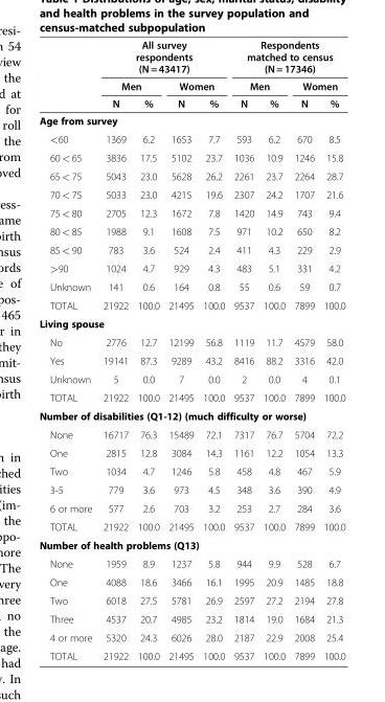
<table><thead><tr><td rowspan="3"></td><td colspan="4">All survey respondents (N = 43417)</td><td colspan="4">Respondents matched to census (N = 17346)</td></tr><tr><td colspan="2">Men</td><td colspan="2">Women</td><td colspan="2">Men</td><td colspan="2">Women</td></tr><tr><td>N</td><td>%</td><td>N</td><td>%</td><td>N</td><td>%</td><td>N</td><td>%</td></tr></thead><tbody><tr><td colspan="9">Age from survey</td></tr><tr><td>&lt;60</td><td>1369</td><td>6.2</td><td>1653</td><td>7.7</td><td>593</td><td>6.2</td><td>670</td><td>8.5</td></tr><tr><td>60 &lt; 65</td><td>3836</td><td>17.5</td><td>5102</td><td>23.7</td><td>1036</td><td>10.9</td><td>1246</td><td>15.8</td></tr><tr><td>65 &lt; 75</td><td>5043</td><td>23.0</td><td>5628</td><td>26.2</td><td>2261</td><td>23.7</td><td>2264</td><td>28.7</td></tr><tr><td>70 &lt; 75</td><td>5033</td><td>23.0</td><td>4215</td><td>19.6</td><td>2307</td><td>24.2</td><td>1707</td><td>21.6</td></tr><tr><td>75 &lt; 80</td><td>2705</td><td>12.3</td><td>1672</td><td>7.8</td><td>1420</td><td>14.9</td><td>743</td><td>9.4</td></tr><tr><td>80 &lt; 85</td><td>1988</td><td>9.1</td><td>1608</td><td>7.5</td><td>971</td><td>10.2</td><td>650</td><td>8.2</td></tr><tr><td>85 &lt; 90</td><td>783</td><td>3.6</td><td>524</td><td>2.4</td><td>411</td><td>4.3</td><td>229</td><td>2.9</td></tr><tr><td>&gt;90</td><td>1024</td><td>4.7</td><td>929</td><td>4.3</td><td>483</td><td>5.1</td><td>331</td><td>4.2</td></tr><tr><td>Unknown</td><td>141</td><td>0.6</td><td>164</td><td>0.8</td><td>55</td><td>0.6</td><td>59</td><td>0.7</td></tr><tr><td>TOTAL</td><td>21922</td><td>100.0</td><td>21495</td><td>100.0</td><td>9537</td><td>100.0</td><td>7899</td><td>100.0</td></tr><tr><td colspan="9">Living spouse</td></tr><tr><td>No</td><td>2776</td><td>12.7</td><td>12199</td><td>56.8</td><td>1119</td><td>11.7</td><td>4579</td><td>58.0</td></tr><tr><td>Yes</td><td>19141</td><td>87.3</td><td>9289</td><td>43.2</td><td>8416</td><td>88.2</td><td>3316</td><td>42.0</td></tr><tr><td>Unknown</td><td>5</td><td>0.0</td><td>7</td><td>0.0</td><td>2</td><td>0.0</td><td>4</td><td>0.1</td></tr><tr><td>TOTAL</td><td>21922</td><td>100.0</td><td>21495</td><td>100.0</td><td>9537</td><td>100.0</td><td>7899</td><td>100.0</td></tr><tr><td colspan="9">Number of disabilities (Q1-12) (much difficulty or worse)</td></tr><tr><td>None</td><td>16717</td><td>76.3</td><td>15489</td><td>72.1</td><td>7317</td><td>76.7</td><td>5704</td><td>72.2</td></tr><tr><td>One</td><td>2815</td><td>12.8</td><td>3084</td><td>14.3</td><td>1161</td><td>12.2</td><td>1054</td><td>13.3</td></tr><tr><td>Two</td><td>1034</td><td>4.7</td><td>1246</td><td>5.8</td><td>458</td><td>4.8</td><td>467</td><td>5.9</td></tr><tr><td>3-5</td><td>779</td><td>3.6</td><td>973</td><td>4.5</td><td>348</td><td>3.6</td><td>390</td><td>4.9</td></tr><tr><td>6 or more</td><td>577</td><td>2.6</td><td>703</td><td>3.2</td><td>253</td><td>2.7</td><td>284</td><td>3.6</td></tr><tr><td>TOTAL</td><td>21922</td><td>100.0</td><td>21495</td><td>100.0</td><td>9537</td><td>100.0</td><td>7899</td><td>100.0</td></tr><tr><td colspan="9">Number of health problems (Q13)</td></tr><tr><td>None</td><td>1959</td><td>8.9</td><td>1237</td><td>5.8</td><td>944</td><td>9.9</td><td>528</td><td>6.7</td></tr><tr><td>One</td><td>4088</td><td>18.6</td><td>3466</td><td>16.1</td><td>1995</td><td>20.9</td><td>1485</td><td>18.8</td></tr><tr><td>Two</td><td>6018</td><td>27.5</td><td>5781</td><td>26.9</td><td>2597</td><td>27.2</td><td>2194</td><td>27.8</td></tr><tr><td>Three</td><td>4537</td><td>20.7</td><td>4985</td><td>23.2</td><td>1814</td><td>19.0</td><td>1684</td><td>21.3</td></tr><tr><td>4 or more</td><td>5320</td><td>24.3</td><td>6026</td><td>28.0</td><td>2187</td><td>22.9</td><td>2008</td><td>25.4</td></tr><tr><td>TOTAL</td><td>21922</td><td>100.0</td><td>21495</td><td>100.0</td><td>9537</td><td>100.0</td><td>7899</td><td>100.0</td></tr></tbody></table>